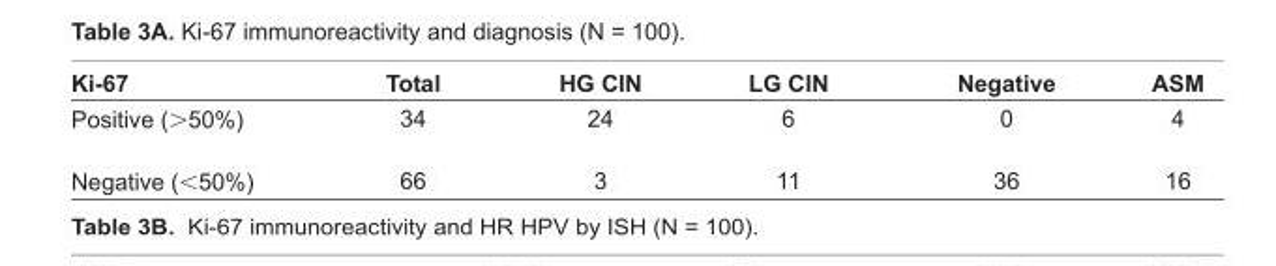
<table><thead><tr><td>Ki-67</td><td>Total</td><td>HG CIN</td><td>LG CIN</td><td>Negative</td><td>ASM</td></tr></thead><tbody><tr><td>Positive (&gt;50%)</td><td>34</td><td>24</td><td>6</td><td>0</td><td>4</td></tr><tr><td>Negative (&lt;50%)</td><td>66</td><td>3</td><td>11</td><td>36</td><td>16</td></tr></tbody></table>